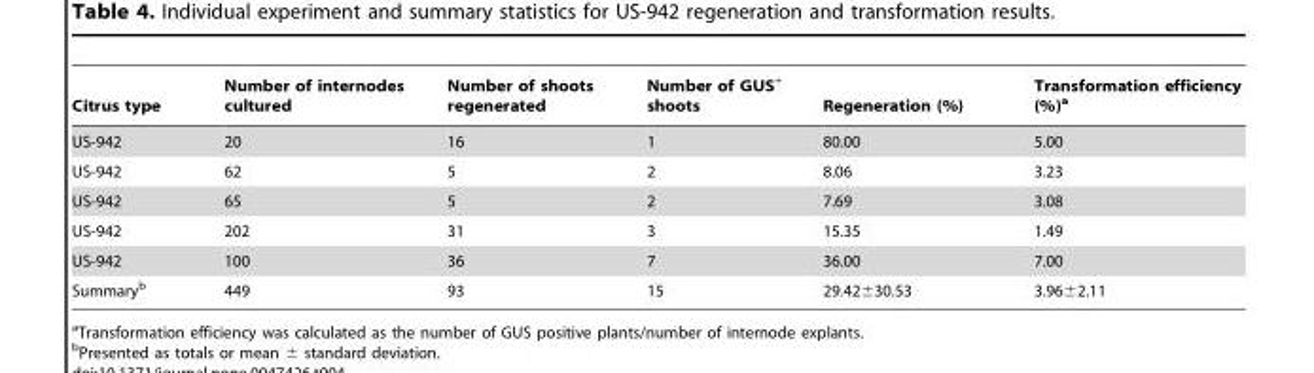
<table><thead><tr><td>Citrus type</td><td>Number of internodes cultured</td><td>Number of shoots regenerated</td><td>Number of GUS<sup>+</sup> shoots</td><td>Regeneration (%)</td><td>Transformation efficiency (%)<sup>a</sup></td></tr></thead><tbody><tr><td>US-942</td><td>20</td><td>16</td><td>1</td><td>80.00</td><td>5.00</td></tr><tr><td>US-942</td><td>62</td><td>5</td><td>2</td><td>8.06</td><td>3.23</td></tr><tr><td>US-942</td><td>65</td><td>5</td><td>2</td><td>7.69</td><td>3.08</td></tr><tr><td>US-942</td><td>202</td><td>31</td><td>3</td><td>15.35</td><td>1.49</td></tr><tr><td>US-942</td><td>100</td><td>36</td><td>7</td><td>36.00</td><td>7.00</td></tr><tr><td>Summary<sup>b</sup></td><td>449</td><td>93</td><td>15</td><td>29.42±30.53</td><td>3.96±2.11</td></tr></tbody></table>